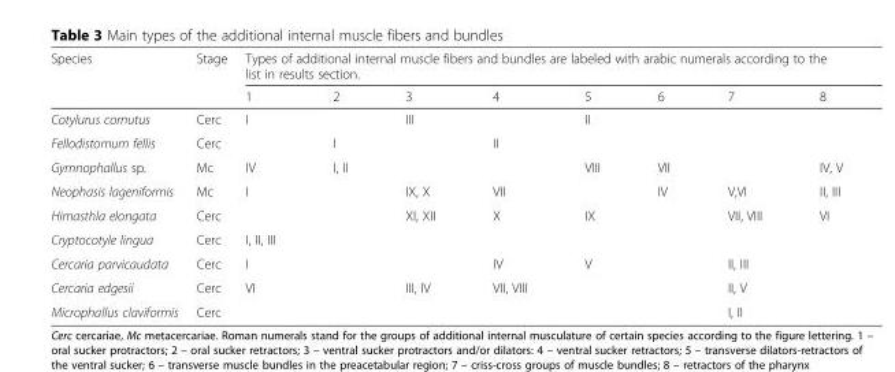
<table><thead><tr><td rowspan="2">Species</td><td rowspan="2">Stage</td><td colspan="8">Types of additional internal muscle fibers and bundles are labeled with arabic numerals according to the list in results section.</td></tr><tr><td>1</td><td>2</td><td>3</td><td>4</td><td>5</td><td>6</td><td>7</td><td>8</td></tr></thead><tbody><tr><td>Cotylurus cornutus</td><td>Cerc</td><td>I</td><td></td><td>III</td><td></td><td>II</td><td></td><td></td><td></td></tr><tr><td>Fellodistomum fellis</td><td>Cerc</td><td></td><td>I</td><td></td><td>II</td><td></td><td></td><td></td><td></td></tr><tr><td>Gymnophallus sp.</td><td>Mc</td><td>IV</td><td>I, II</td><td></td><td></td><td>VIII</td><td>VII</td><td></td><td>IV, V</td></tr><tr><td>Neophasis lageniformis</td><td>Mc</td><td>I</td><td></td><td>IX, X</td><td>VII</td><td></td><td>IV</td><td>V,VI</td><td>II, III</td></tr><tr><td>Himasthla elongata</td><td>Cerc</td><td></td><td></td><td>XI, XII</td><td>X</td><td>IX</td><td></td><td>VII, VIII</td><td>VI</td></tr><tr><td>Cryptocotyle lingua</td><td>Cerc</td><td>I, II, III</td><td></td><td></td><td></td><td></td><td></td><td></td><td></td></tr><tr><td>Cercaria parvicaudata</td><td>Cerc</td><td>I</td><td></td><td></td><td>IV</td><td>V</td><td></td><td>II, III</td><td></td></tr><tr><td>Cercaria edgesii</td><td>Cerc</td><td>VI</td><td></td><td>III, IV</td><td>VII, VIII</td><td></td><td></td><td>II, V</td><td></td></tr><tr><td>Microphallus claviformis</td><td>Cerc</td><td></td><td></td><td></td><td></td><td></td><td></td><td>I, II</td><td></td></tr></tbody></table>